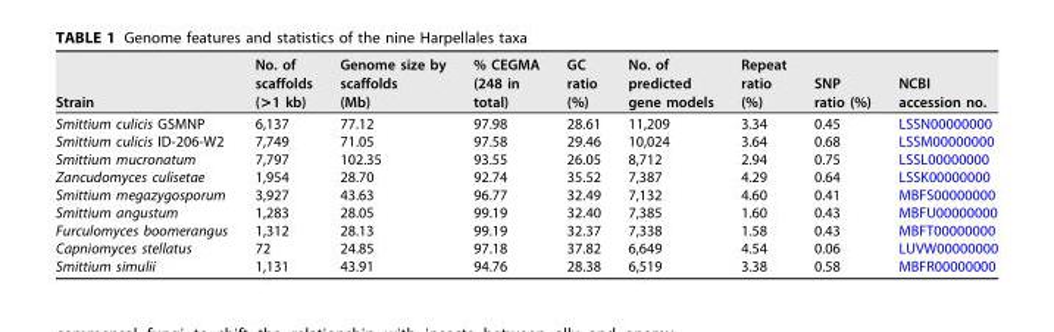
<table><thead><tr><td>Strain</td><td>No. of scaffolds (&gt;1 kb)</td><td>Genome size by scaffolds (Mb)</td><td>% CEGMA (248 in total)</td><td>GC ratio (%)</td><td>No. of predicted gene models</td><td>Repeat ratio (%)</td><td>SNP ratio (%)</td><td>NCBI accession no.</td></tr></thead><tbody><tr><td>Smittium culicis GSMNP</td><td>6,137</td><td>77.12</td><td>97.98</td><td>28.61</td><td>11,209</td><td>3.34</td><td>0.45</td><td>LSSN00000000</td></tr><tr><td>Smittium culicis ID-206-W2</td><td>7,749</td><td>71.05</td><td>97.58</td><td>29.46</td><td>10,024</td><td>3.64</td><td>0.68</td><td>LSSM00000000</td></tr><tr><td>Smittium mucronatum</td><td>7,797</td><td>102.35</td><td>93.55</td><td>26.05</td><td>8,712</td><td>2.94</td><td>0.75</td><td>LSSL00000000</td></tr><tr><td>Zancudomyces culisetae</td><td>1,954</td><td>28.70</td><td>92.74</td><td>35.52</td><td>7,387</td><td>4.29</td><td>0.64</td><td>LSSK00000000</td></tr><tr><td>Smittium megazygosporum</td><td>3,927</td><td>43.63</td><td>96.77</td><td>32.49</td><td>7,132</td><td>4.60</td><td>0.41</td><td>MBFS00000000</td></tr><tr><td>Smittium angustum</td><td>1,283</td><td>28.05</td><td>99.19</td><td>32.40</td><td>7,385</td><td>1.60</td><td>0.43</td><td>MBFU00000000</td></tr><tr><td>Furculomyces boomerangus</td><td>1,312</td><td>28.13</td><td>99.19</td><td>32.37</td><td>7,338</td><td>1.58</td><td>0.43</td><td>MBFT00000000</td></tr><tr><td>Capniomyces stellatus</td><td>72</td><td>24.85</td><td>97.18</td><td>37.82</td><td>6,649</td><td>4.54</td><td>0.06</td><td>LUVW00000000</td></tr><tr><td>Smittium simulii</td><td>1,131</td><td>43.91</td><td>94.76</td><td>28.38</td><td>6,519</td><td>3.38</td><td>0.58</td><td>MBFR00000000</td></tr></tbody></table>